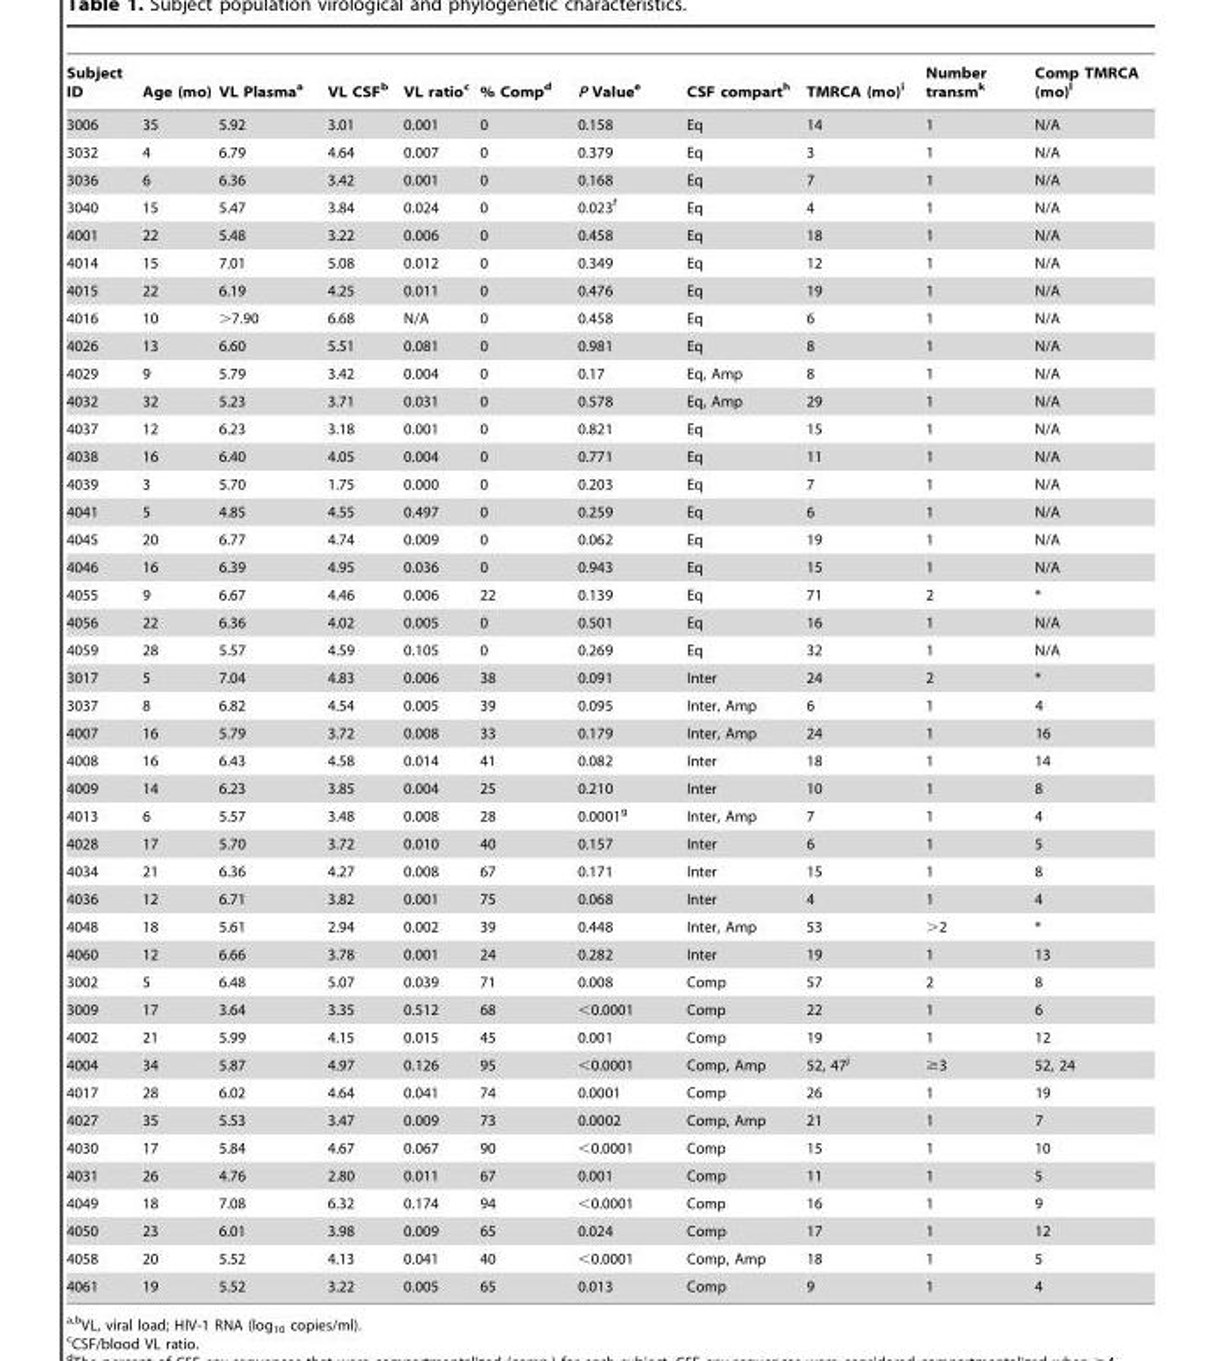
<table><thead><tr><td>Subject ID</td><td>Age (mo)</td><td>VL Plasma<sup>a</sup></td><td>VL CSF<sup>b</sup></td><td>VL ratio<sup>c</sup></td><td>% Comp<sup>d</sup></td><td>P Value<sup>e</sup></td><td>CSF compart<sup>h</sup></td><td>TMRCA (mo)<sup>i</sup></td><td>Number transm<sup>k</sup></td><td>Comp TMRCA (mo)<sup>l</sup></td></tr></thead><tbody><tr><td>3006</td><td>35</td><td>5.92</td><td>3.01</td><td>0.001</td><td>0</td><td>0.158</td><td>Eq</td><td>14</td><td>1</td><td>N/A</td></tr><tr><td>3032</td><td>4</td><td>6.79</td><td>4.64</td><td>0.007</td><td>0</td><td>0.379</td><td>Eq</td><td>3</td><td>1</td><td>N/A</td></tr><tr><td>3036</td><td>6</td><td>6.36</td><td>3.42</td><td>0.001</td><td>0</td><td>0.168</td><td>Eq</td><td>7</td><td>1</td><td>N/A</td></tr><tr><td>3040</td><td>15</td><td>5.47</td><td>3.84</td><td>0.024</td><td>0</td><td>0.023<sup>f</sup></td><td>Eq</td><td>4</td><td>1</td><td>N/A</td></tr><tr><td>4001</td><td>22</td><td>5.48</td><td>3.22</td><td>0.006</td><td>0</td><td>0.458</td><td>Eq</td><td>18</td><td>1</td><td>N/A</td></tr><tr><td>4014</td><td>15</td><td>7.01</td><td>5.08</td><td>0.012</td><td>0</td><td>0.349</td><td>Eq</td><td>12</td><td>1</td><td>N/A</td></tr><tr><td>4015</td><td>22</td><td>6.19</td><td>4.25</td><td>0.011</td><td>0</td><td>0.476</td><td>Eq</td><td>19</td><td>1</td><td>N/A</td></tr><tr><td>4016</td><td>10</td><td>&gt;7.90</td><td>6.68</td><td>N/A</td><td>0</td><td>0.458</td><td>Eq</td><td>6</td><td>1</td><td>N/A</td></tr><tr><td>4026</td><td>13</td><td>6.60</td><td>5.51</td><td>0.081</td><td>0</td><td>0.981</td><td>Eq</td><td>8</td><td>1</td><td>N/A</td></tr><tr><td>4029</td><td>9</td><td>5.79</td><td>3.42</td><td>0.004</td><td>0</td><td>0.17</td><td>Eq, Amp</td><td>8</td><td>1</td><td>N/A</td></tr><tr><td>4032</td><td>32</td><td>5.23</td><td>3.71</td><td>0.031</td><td>0</td><td>0.578</td><td>Eq, Amp</td><td>29</td><td>1</td><td>N/A</td></tr><tr><td>4037</td><td>12</td><td>6.23</td><td>3.18</td><td>0.001</td><td>0</td><td>0.821</td><td>Eq</td><td>15</td><td>1</td><td>N/A</td></tr><tr><td>4038</td><td>16</td><td>6.40</td><td>4.05</td><td>0.004</td><td>0</td><td>0.771</td><td>Eq</td><td>11</td><td>1</td><td>N/A</td></tr><tr><td>4039</td><td>3</td><td>5.70</td><td>1.75</td><td>0.000</td><td>0</td><td>0.203</td><td>Eq</td><td>7</td><td>1</td><td>N/A</td></tr><tr><td>4041</td><td>5</td><td>4.85</td><td>4.55</td><td>0.497</td><td>0</td><td>0.259</td><td>Eq</td><td>6</td><td>1</td><td>N/A</td></tr><tr><td>4045</td><td>20</td><td>6.77</td><td>4.74</td><td>0.009</td><td>0</td><td>0.062</td><td>Eq</td><td>19</td><td>1</td><td>N/A</td></tr><tr><td>4046</td><td>16</td><td>6.39</td><td>4.95</td><td>0.036</td><td>0</td><td>0.943</td><td>Eq</td><td>15</td><td>1</td><td>N/A</td></tr><tr><td>4055</td><td>9</td><td>6.67</td><td>4.46</td><td>0.006</td><td>22</td><td>0.139</td><td>Eq</td><td>71</td><td>2</td><td>*</td></tr><tr><td>4056</td><td>22</td><td>6.36</td><td>4.02</td><td>0.005</td><td>0</td><td>0.501</td><td>Eq</td><td>16</td><td>1</td><td>N/A</td></tr><tr><td>4059</td><td>28</td><td>5.57</td><td>4.59</td><td>0.105</td><td>0</td><td>0.269</td><td>Eq</td><td>32</td><td>1</td><td>N/A</td></tr><tr><td>3017</td><td>5</td><td>7.04</td><td>4.83</td><td>0.006</td><td>38</td><td>0.091</td><td>Inter</td><td>24</td><td>2</td><td>*</td></tr><tr><td>3037</td><td>8</td><td>6.82</td><td>4.54</td><td>0.005</td><td>39</td><td>0.095</td><td>Inter, Amp</td><td>6</td><td>1</td><td>4</td></tr><tr><td>4007</td><td>16</td><td>5.79</td><td>3.72</td><td>0.008</td><td>33</td><td>0.179</td><td>Inter, Amp</td><td>24</td><td>1</td><td>16</td></tr><tr><td>4008</td><td>16</td><td>6.43</td><td>4.58</td><td>0.014</td><td>41</td><td>0.082</td><td>Inter</td><td>18</td><td>1</td><td>14</td></tr><tr><td>4009</td><td>14</td><td>6.23</td><td>3.85</td><td>0.004</td><td>25</td><td>0.210</td><td>Inter</td><td>10</td><td>1</td><td>8</td></tr><tr><td>4013</td><td>6</td><td>5.57</td><td>3.48</td><td>0.008</td><td>28</td><td>0.0001<sup>g</sup></td><td>Inter, Amp</td><td>7</td><td>1</td><td>4</td></tr><tr><td>4028</td><td>17</td><td>5.70</td><td>3.72</td><td>0.010</td><td>40</td><td>0.157</td><td>Inter</td><td>6</td><td>1</td><td>5</td></tr><tr><td>4034</td><td>21</td><td>6.36</td><td>4.27</td><td>0.008</td><td>67</td><td>0.171</td><td>Inter</td><td>15</td><td>1</td><td>8</td></tr><tr><td>4036</td><td>12</td><td>6.71</td><td>3.82</td><td>0.001</td><td>75</td><td>0.068</td><td>Inter</td><td>4</td><td>1</td><td>4</td></tr><tr><td>4048</td><td>18</td><td>5.61</td><td>2.94</td><td>0.002</td><td>39</td><td>0.448</td><td>Inter, Amp</td><td>53</td><td>&gt;2</td><td>*</td></tr><tr><td>4060</td><td>12</td><td>6.66</td><td>3.78</td><td>0.001</td><td>24</td><td>0.282</td><td>Inter</td><td>19</td><td>1</td><td>13</td></tr><tr><td>3002</td><td>5</td><td>6.48</td><td>5.07</td><td>0.039</td><td>71</td><td>0.008</td><td>Comp</td><td>57</td><td>2</td><td>8</td></tr><tr><td>3009</td><td>17</td><td>3.64</td><td>3.35</td><td>0.512</td><td>68</td><td>&lt;0.0001</td><td>Comp</td><td>22</td><td>1</td><td>6</td></tr><tr><td>4002</td><td>21</td><td>5.99</td><td>4.15</td><td>0.015</td><td>45</td><td>0.001</td><td>Comp</td><td>19</td><td>1</td><td>12</td></tr><tr><td>4004</td><td>34</td><td>5.87</td><td>4.97</td><td>0.126</td><td>95</td><td>&lt;0.0001</td><td>Comp, Amp</td><td>52, 47<sup>j</sup></td><td>≥3</td><td>52, 24</td></tr><tr><td>4017</td><td>28</td><td>6.02</td><td>4.64</td><td>0.041</td><td>74</td><td>0.0001</td><td>Comp</td><td>26</td><td>1</td><td>19</td></tr><tr><td>4027</td><td>35</td><td>5.53</td><td>3.47</td><td>0.009</td><td>73</td><td>0.0002</td><td>Comp, Amp</td><td>21</td><td>1</td><td>7</td></tr><tr><td>4030</td><td>17</td><td>5.84</td><td>4.67</td><td>0.067</td><td>90</td><td>&lt;0.0001</td><td>Comp</td><td>15</td><td>1</td><td>10</td></tr><tr><td>4031</td><td>26</td><td>4.76</td><td>2.80</td><td>0.011</td><td>67</td><td>0.001</td><td>Comp</td><td>11</td><td>1</td><td>5</td></tr><tr><td>4049</td><td>18</td><td>7.08</td><td>6.32</td><td>0.174</td><td>94</td><td>&lt;0.0001</td><td>Comp</td><td>16</td><td>1</td><td>9</td></tr><tr><td>4050</td><td>23</td><td>6.01</td><td>3.98</td><td>0.009</td><td>65</td><td>0.024</td><td>Comp</td><td>17</td><td>1</td><td>12</td></tr><tr><td>4058</td><td>20</td><td>5.52</td><td>4.13</td><td>0.041</td><td>40</td><td>&lt;0.0001</td><td>Comp, Amp</td><td>18</td><td>1</td><td>5</td></tr><tr><td>4061</td><td>19</td><td>5.52</td><td>3.22</td><td>0.005</td><td>65</td><td>0.013</td><td>Comp</td><td>9</td><td>1</td><td>4</td></tr></tbody></table>